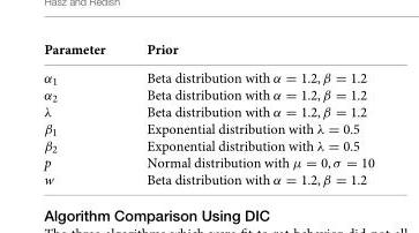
<table><tbody><tr><td>Parameter</td><td>Prior</td></tr><tr><td>α<sub>1</sub></td><td>Beta distribution with α = 1.2, β = 1.2</td></tr><tr><td>α<sub>2</sub></td><td>Beta distribution with α = 1.2, β = 1.2</td></tr><tr><td>λ</td><td>Beta distribution with α = 1.2, β = 1.2</td></tr><tr><td>β<sub>1</sub></td><td>Exponential distribution with λ = 0.5</td></tr><tr><td>β<sub>2</sub></td><td>Exponential distribution with λ = 0.5</td></tr><tr><td>p</td><td>Normal distribution with µ = 0, σ = 10</td></tr><tr><td>w</td><td>Beta distribution with α = 1.2, β = 1.2</td></tr></tbody></table>